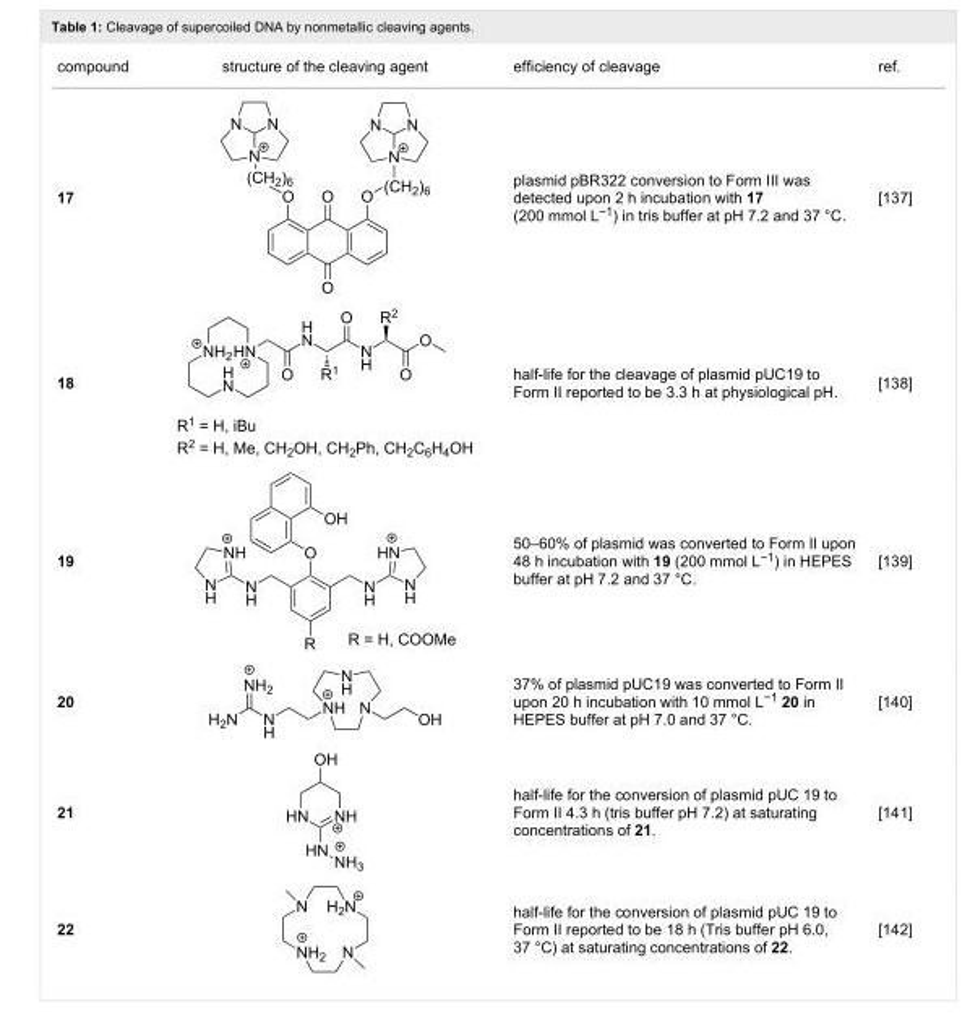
<table><tbody><tr><td>compound</td><td>structure of the cleaving agent</td><td>efficiency of cleavage</td><td>ref.</td></tr><tr><td>17</td><td></td><td>plasmid pBR322 conversion to Form III was detected upon 2 h incubation with 17 (200 mmol L<sup>−1</sup>) in tris buffer at pH 7.2 and 37 °C.</td><td>[137]</td></tr><tr><td>18</td><td></td><td>half-life for the cleavage of plasmid pUC19 to Form II reported to be 3.3 h at physiological pH.</td><td>[138]</td></tr><tr><td>19</td><td></td><td>50–60% of plasmid was converted to Form II upon 48 h incubation with 19 (200 mmol L<sup>−1</sup>) in HEPES buffer at pH 7.2 and 37 °C.</td><td>[139]</td></tr><tr><td>20</td><td></td><td>37% of plasmid pUC19 was converted to Form II upon 20 h incubation with 10 mmol L<sup>−1</sup> 20 in HEPES buffer at pH 7.0 and 37 °C.</td><td>[140]</td></tr><tr><td>21</td><td></td><td>half-life for the conversion of plasmid pUC 19 to Form II 4.3 h (tris buffer pH 7.2) at saturating concentrations of 21.</td><td>[141]</td></tr><tr><td>22</td><td></td><td>half-life for the conversion of plasmid pUC 19 to Form II reported to be 18 h (Tris buffer pH 6.0, 37 °C) at saturating concentrations of 22.</td><td>[142]</td></tr></tbody></table>